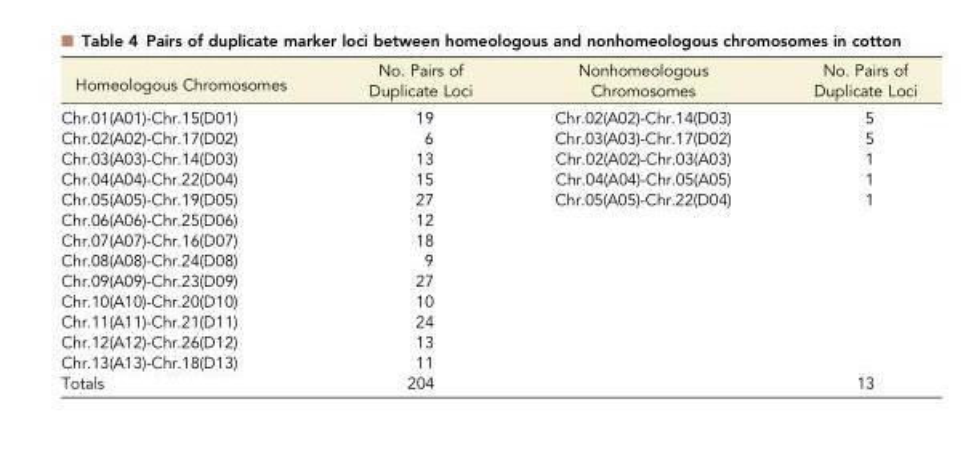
<table><thead><tr><td>Homeologous Chromosomes</td><td>No. Pairs of Duplicate Loci</td><td>Nonhomeologous Chromosomes</td><td>No. Pairs of Duplicate Loci</td></tr></thead><tbody><tr><td>Chr.01(A01)-Chr.15(D01)</td><td>19</td><td>Chr.02(A02)-Chr.14(D03)</td><td>5</td></tr><tr><td>Chr.02(A02)-Chr.17(D02)</td><td>6</td><td>Chr.03(A03)-Chr.17(D02)</td><td>5</td></tr><tr><td>Chr.03(A03)-Chr.14(D03)</td><td>13</td><td>Chr.02(A02)-Chr.03(A03)</td><td>1</td></tr><tr><td>Chr.04(A04)-Chr.22(D04)</td><td>15</td><td>Chr.04(A04)-Chr.05(A05)</td><td>1</td></tr><tr><td>Chr.05(A05)-Chr.19(D05)</td><td>27</td><td>Chr.05(A05)-Chr.22(D04)</td><td>1</td></tr><tr><td>Chr.06(A06)-Chr.25(D06)</td><td>12</td><td></td><td></td></tr><tr><td>Chr.07(A07)-Chr.16(D07)</td><td>18</td><td></td><td></td></tr><tr><td>Chr.08(A08)-Chr.24(D08)</td><td>9</td><td></td><td></td></tr><tr><td>Chr.09(A09)-Chr.23(D09)</td><td>27</td><td></td><td></td></tr><tr><td>Chr.10(A10)-Chr.20(D10)</td><td>10</td><td></td><td></td></tr><tr><td>Chr.11(A11)-Chr.21(D11)</td><td>24</td><td></td><td></td></tr><tr><td>Chr.12(A12)-Chr.26(D12)</td><td>13</td><td></td><td></td></tr><tr><td>Chr.13(A13)-Chr.18(D13)</td><td>11</td><td></td><td></td></tr><tr><td>Totals</td><td>204</td><td></td><td>13</td></tr></tbody></table>